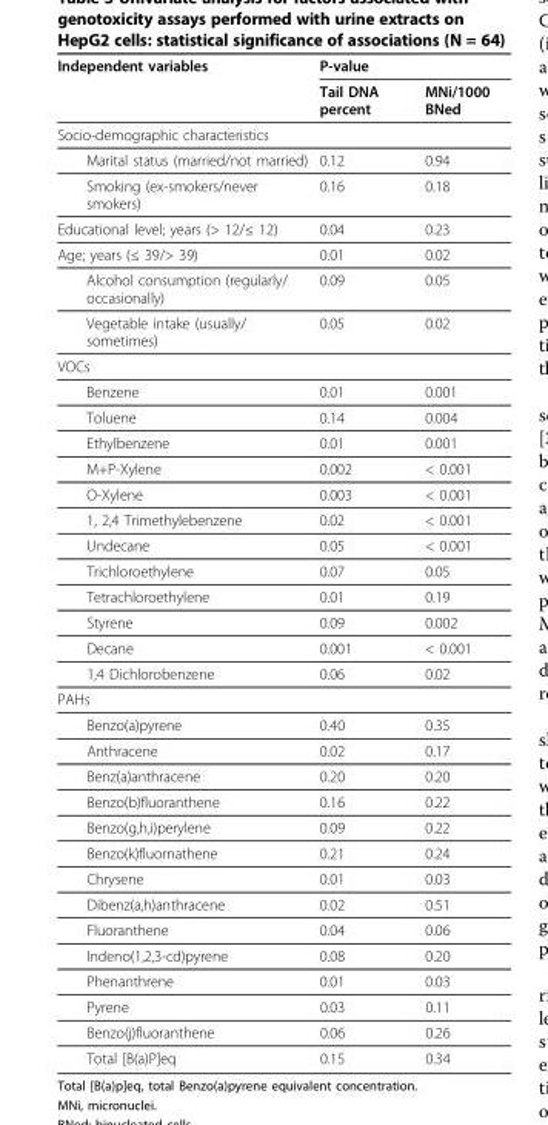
<table><thead><tr><td rowspan="2">Independent variables</td><td colspan="2">P-value</td></tr><tr><td>Tail DNA percent</td><td>MNi/1000 BNed</td></tr></thead><tbody><tr><td colspan="3">Socio-demographic characteristics</td></tr><tr><td>Marital status (married/not married)</td><td>0.12</td><td>0.94</td></tr><tr><td>Smoking (ex-smokers/never smokers)</td><td>0.16</td><td>0.18</td></tr><tr><td>Educational level; years (&gt; 12/≤ 12)</td><td>0.04</td><td>0.23</td></tr><tr><td>Age; years (≤ 39/&gt; 39)</td><td>0.01</td><td>0.02</td></tr><tr><td>Alcohol consumption (regularly/ occasionally)</td><td>0.09</td><td>0.05</td></tr><tr><td>Vegetable intake (usually/ sometimes)</td><td>0.05</td><td>0.02</td></tr><tr><td colspan="3">VOCs</td></tr><tr><td>Benzene</td><td>0.01</td><td>0.001</td></tr><tr><td>Toluene</td><td>0.14</td><td>0.004</td></tr><tr><td>Ethylbenzene</td><td>0.01</td><td>0.001</td></tr><tr><td>M+P-Xylene</td><td>0.002</td><td>&lt; 0.001</td></tr><tr><td>O-Xylene</td><td>0.003</td><td>&lt; 0.001</td></tr><tr><td>1, 2,4 Trimethylebenzene</td><td>0.02</td><td>&lt; 0.001</td></tr><tr><td>Undecane</td><td>0.05</td><td>&lt; 0.001</td></tr><tr><td>Trichloroethylene</td><td>0.07</td><td>0.05</td></tr><tr><td>Tetrachloroethylene</td><td>0.01</td><td>0.19</td></tr><tr><td>Styrene</td><td>0.09</td><td>0.002</td></tr><tr><td>Decane</td><td>0.001</td><td>&lt; 0.001</td></tr><tr><td>1,4 Dichlorobenzene</td><td>0.06</td><td>0.02</td></tr><tr><td colspan="3">PAHs</td></tr><tr><td>Benzo(a)pyrene</td><td>0.40</td><td>0.35</td></tr><tr><td>Anthracene</td><td>0.02</td><td>0.17</td></tr><tr><td>Benz(a)anthracene</td><td>0.20</td><td>0.20</td></tr><tr><td>Benzo(b)fluoranthene</td><td>0.16</td><td>0.22</td></tr><tr><td>Benzo(g,h,i)perylene</td><td>0.09</td><td>0.22</td></tr><tr><td>Benzo(k)fluornathene</td><td>0.21</td><td>0.24</td></tr><tr><td>Chrysene</td><td>0.01</td><td>0.03</td></tr><tr><td>Dibenz(a,h)anthracene</td><td>0.02</td><td>0.51</td></tr><tr><td>Fluoranthene</td><td>0.04</td><td>0.06</td></tr><tr><td>Indeno(1,2,3-cd)pyrene</td><td>0.08</td><td>0.20</td></tr><tr><td>Phenanthrene</td><td>0.01</td><td>0.03</td></tr><tr><td>Pyrene</td><td>0.03</td><td>0.11</td></tr><tr><td>Benzo(j)fluoranthene</td><td>0.06</td><td>0.26</td></tr><tr><td>Total [B(a)P]eq</td><td>0.15</td><td>0.34</td></tr></tbody></table>